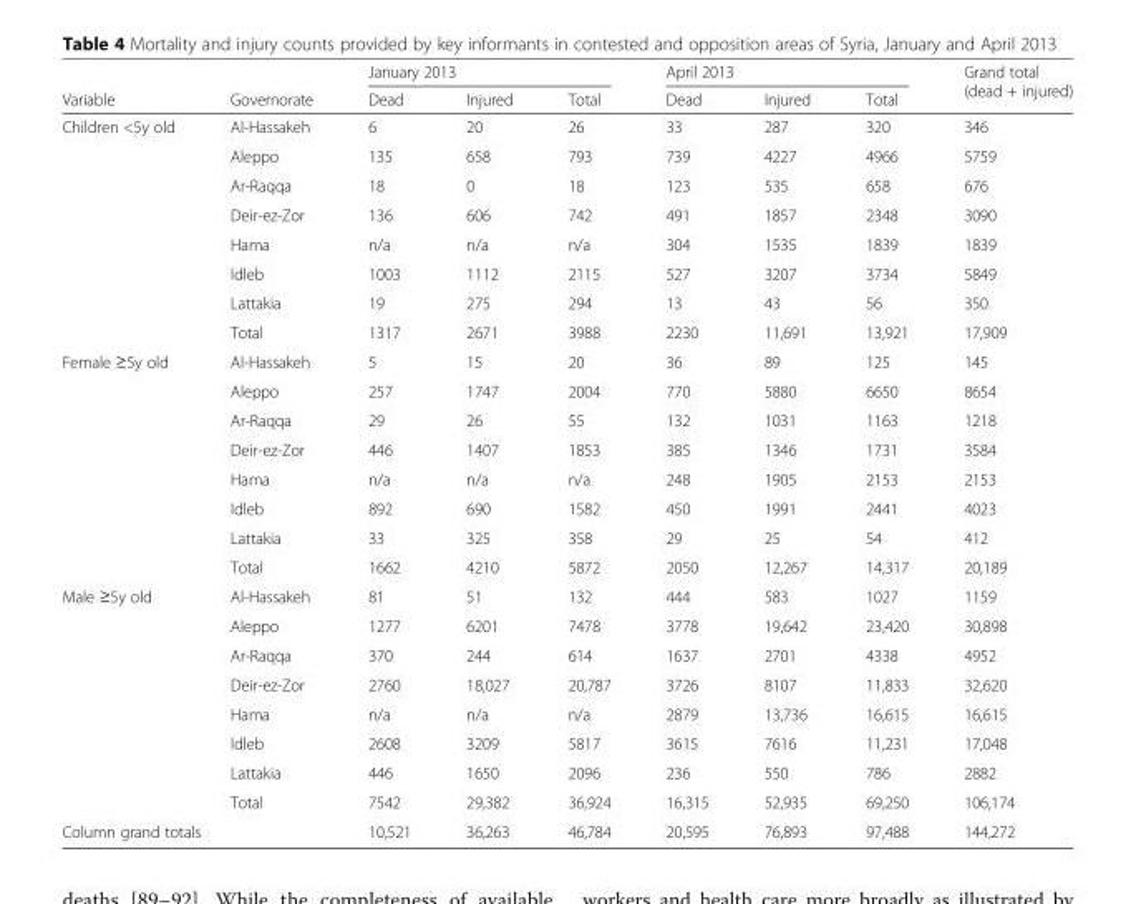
<table><thead><tr><td rowspan="2">Variable</td><td rowspan="2">Governorate</td><td colspan="3">January 2013</td><td colspan="3">April 2013</td><td rowspan="2">Grand total (dead + injured)</td></tr><tr><td>Dead</td><td>Injured</td><td>Total</td><td>Dead</td><td>Injured</td><td>Total</td></tr></thead><tbody><tr><td rowspan="8">Children &lt;5y old</td><td>Al-Hassakeh</td><td>6</td><td>20</td><td>26</td><td>33</td><td>287</td><td>320</td><td>346</td></tr><tr><td>Aleppo</td><td>135</td><td>658</td><td>793</td><td>739</td><td>4227</td><td>4966</td><td>5759</td></tr><tr><td>Ar-Raqqa</td><td>18</td><td>0</td><td>18</td><td>123</td><td>535</td><td>658</td><td>676</td></tr><tr><td>Deir-ez-Zor</td><td>136</td><td>606</td><td>742</td><td>491</td><td>1857</td><td>2348</td><td>3090</td></tr><tr><td>Hama</td><td>n/a</td><td>n/a</td><td>n/a</td><td>304</td><td>1535</td><td>1839</td><td>1839</td></tr><tr><td>Idleb</td><td>1003</td><td>1112</td><td>2115</td><td>527</td><td>3207</td><td>3734</td><td>5849</td></tr><tr><td>Lattakia</td><td>19</td><td>275</td><td>294</td><td>13</td><td>43</td><td>56</td><td>350</td></tr><tr><td>Total</td><td>1317</td><td>2671</td><td>3988</td><td>2230</td><td>11,691</td><td>13,921</td><td>17,909</td></tr><tr><td rowspan="8">Female ≥5y old</td><td>Al-Hassakeh</td><td>5</td><td>15</td><td>20</td><td>36</td><td>89</td><td>125</td><td>145</td></tr><tr><td>Aleppo</td><td>257</td><td>1747</td><td>2004</td><td>770</td><td>5880</td><td>6650</td><td>8654</td></tr><tr><td>Ar-Raqqa</td><td>29</td><td>26</td><td>55</td><td>132</td><td>1031</td><td>1163</td><td>1218</td></tr><tr><td>Deir-ez-Zor</td><td>446</td><td>1407</td><td>1853</td><td>385</td><td>1346</td><td>1731</td><td>3584</td></tr><tr><td>Hama</td><td>n/a</td><td>n/a</td><td>n/a</td><td>248</td><td>1905</td><td>2153</td><td>2153</td></tr><tr><td>Idleb</td><td>892</td><td>690</td><td>1582</td><td>450</td><td>1991</td><td>2441</td><td>4023</td></tr><tr><td>Lattakia</td><td>33</td><td>325</td><td>358</td><td>29</td><td>25</td><td>54</td><td>412</td></tr><tr><td>Total</td><td>1662</td><td>4210</td><td>5872</td><td>2050</td><td>12,267</td><td>14,317</td><td>20,189</td></tr><tr><td rowspan="8">Male ≥5y old</td><td>Al-Hassakeh</td><td>81</td><td>51</td><td>132</td><td>444</td><td>583</td><td>1027</td><td>1159</td></tr><tr><td>Aleppo</td><td>1277</td><td>6201</td><td>7478</td><td>3778</td><td>19,642</td><td>23,420</td><td>30,898</td></tr><tr><td>Ar-Raqqa</td><td>370</td><td>244</td><td>614</td><td>1637</td><td>2701</td><td>4338</td><td>4952</td></tr><tr><td>Deir-ez-Zor</td><td>2760</td><td>18,027</td><td>20,787</td><td>3726</td><td>8107</td><td>11,833</td><td>32,620</td></tr><tr><td>Hama</td><td>n/a</td><td>n/a</td><td>n/a</td><td>2879</td><td>13,736</td><td>16,615</td><td>16,615</td></tr><tr><td>Idleb</td><td>2608</td><td>3209</td><td>5817</td><td>3615</td><td>7616</td><td>11,231</td><td>17,048</td></tr><tr><td>Lattakia</td><td>446</td><td>1650</td><td>2096</td><td>236</td><td>550</td><td>786</td><td>2882</td></tr><tr><td>Total</td><td>7542</td><td>29,382</td><td>36,924</td><td>16,315</td><td>52,935</td><td>69,250</td><td>106,174</td></tr><tr><td colspan="2">Column grand totals</td><td>10,521</td><td>36,263</td><td>46,784</td><td>20,595</td><td>76,893</td><td>97,488</td><td>144,272</td></tr></tbody></table>